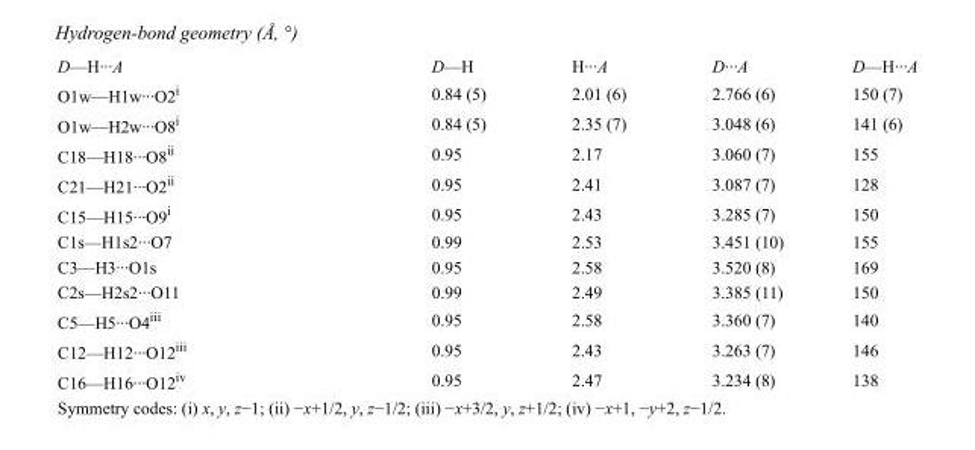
<table><tbody><tr><td>D—H···A</td><td>D—H</td><td>H···A</td><td>D···A</td><td>D—H···A</td></tr><tr><td>O1w—H1w···O2<sup>i</sup></td><td>0.84 (5)</td><td>2.01 (6)</td><td>2.766 (6)</td><td>150 (7)</td></tr><tr><td>O1w—H2w···O8<sup>i</sup></td><td>0.84 (5)</td><td>2.35 (7)</td><td>3.048 (6)</td><td>141 (6)</td></tr><tr><td>C18—H18···O8<sup>ii</sup></td><td>0.95</td><td>2.17</td><td>3.060 (7)</td><td>155</td></tr><tr><td>C21—H21···O2<sup>ii</sup></td><td>0.95</td><td>2.41</td><td>3.087 (7)</td><td>128</td></tr><tr><td>C15—H15···O9<sup>i</sup></td><td>0.95</td><td>2.43</td><td>3.285 (7)</td><td>150</td></tr><tr><td>C1s—H1s2···O7</td><td>0.99</td><td>2.53</td><td>3.451 (10)</td><td>155</td></tr><tr><td>C3—H3···O1s</td><td>0.95</td><td>2.58</td><td>3.520 (8)</td><td>169</td></tr><tr><td>C2s—H2s2···O11</td><td>0.99</td><td>2.49</td><td>3.385 (11)</td><td>150</td></tr><tr><td>C5—H5···O4<sup>iii</sup></td><td>0.95</td><td>2.58</td><td>3.360 (7)</td><td>140</td></tr><tr><td>C12—H12···O12<sup>iii</sup></td><td>0.95</td><td>2.43</td><td>3.263 (7)</td><td>146</td></tr><tr><td>C16—H16···O12<sup>iv</sup></td><td>0.95</td><td>2.47</td><td>3.234 (8)</td><td>138</td></tr></tbody></table>